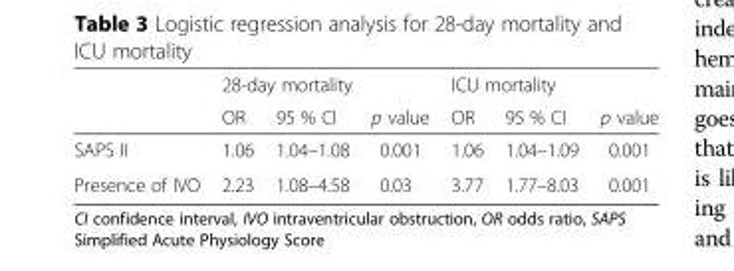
<table><thead><tr><td rowspan="2"></td><td colspan="3">28-day mortality</td><td colspan="3">ICU mortality</td></tr><tr><td>OR</td><td>95 % CI</td><td>p value</td><td>OR</td><td>95 % CI</td><td>p value</td></tr></thead><tbody><tr><td>SAPS II</td><td>1.06</td><td>1.04–1.08</td><td>0.001</td><td>1.06</td><td>1.04–1.09</td><td>0.001</td></tr><tr><td>Presence of IVO</td><td>2.23</td><td>1.08–4.58</td><td>0.03</td><td>3.77</td><td>1.77–8.03</td><td>0.001</td></tr></tbody></table>